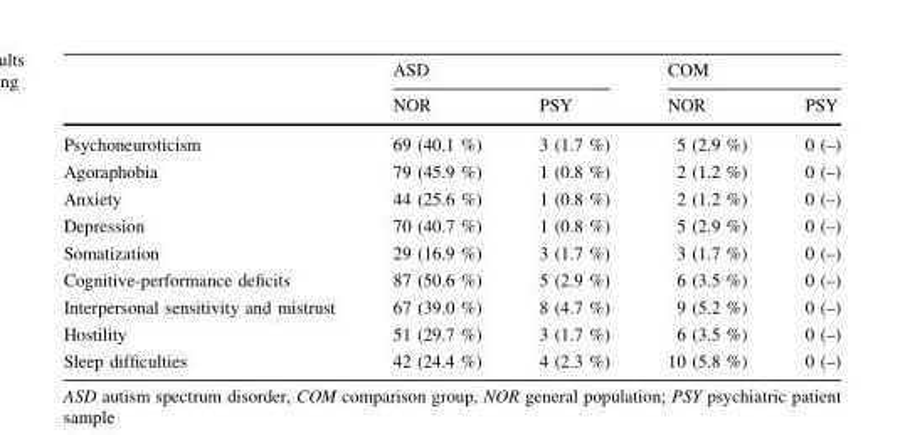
<table><thead><tr><td rowspan="2"></td><td colspan="2">ASD</td><td colspan="2">COM</td></tr><tr><td>NOR</td><td>PSY</td><td>NOR</td><td>PSY</td></tr></thead><tbody><tr><td>Psychoneuroticism</td><td>69 (40.1 %)</td><td>3 (1.7 %)</td><td>5 (2.9 %)</td><td>0 (–)</td></tr><tr><td>Agoraphobia</td><td>79 (45.9 %)</td><td>1 (0.8 %)</td><td>2 (1.2 %)</td><td>0 (–)</td></tr><tr><td>Anxiety</td><td>44 (25.6 %)</td><td>1 (0.8 %)</td><td>2 (1.2 %)</td><td>0 (–)</td></tr><tr><td>Depression</td><td>70 (40.7 %)</td><td>1 (0.8 %)</td><td>5 (2.9 %)</td><td>0 (–)</td></tr><tr><td>Somatization</td><td>29 (16.9 %)</td><td>3 (1.7 %)</td><td>3 (1.7 %)</td><td>0 (–)</td></tr><tr><td>Cognitive-performance deficits</td><td>87 (50.6 %)</td><td>5 (2.9 %)</td><td>6 (3.5 %)</td><td>0 (–)</td></tr><tr><td>Interpersonal sensitivity and mistrust</td><td>67 (39.0 %)</td><td>8 (4.7 %)</td><td>9 (5.2 %)</td><td>0 (–)</td></tr><tr><td>Hostility</td><td>51 (29.7 %)</td><td>3 (1.7 %)</td><td>6 (3.5 %)</td><td>0 (–)</td></tr><tr><td>Sleep difficulties</td><td>42 (24.4 %)</td><td>4 (2.3 %)</td><td>10 (5.8 %)</td><td>0 (–)</td></tr></tbody></table>